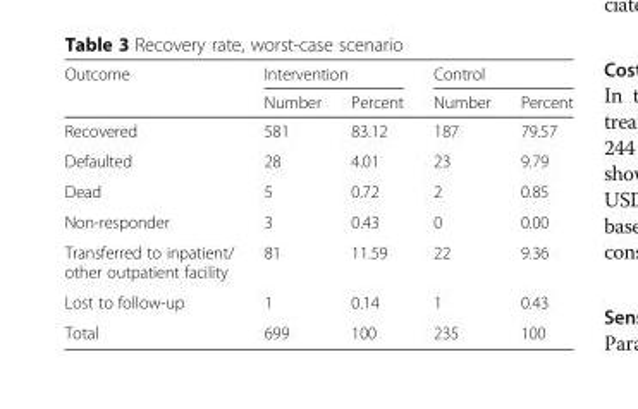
<table><thead><tr><td rowspan="2">Outcome</td><td colspan="2">Intervention</td><td colspan="2">Control</td></tr><tr><td>Number</td><td>Percent</td><td>Number</td><td>Percent</td></tr></thead><tbody><tr><td>Recovered</td><td>581</td><td>83.12</td><td>187</td><td>79.57</td></tr><tr><td>Defaulted</td><td>28</td><td>4.01</td><td>23</td><td>9.79</td></tr><tr><td>Dead</td><td>5</td><td>0.72</td><td>2</td><td>0.85</td></tr><tr><td>Non-responder</td><td>3</td><td>0.43</td><td>0</td><td>0.00</td></tr><tr><td>Transferred to inpatient/ other outpatient facility</td><td>81</td><td>11.59</td><td>22</td><td>9.36</td></tr><tr><td>Lost to follow-up</td><td>1</td><td>0.14</td><td>1</td><td>0.43</td></tr><tr><td>Total</td><td>699</td><td>100</td><td>235</td><td>100</td></tr></tbody></table>